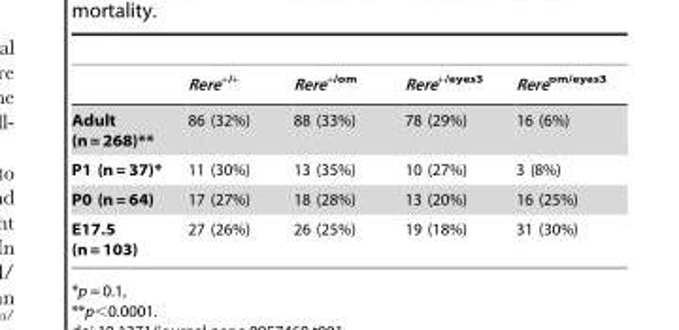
<table><thead><tr><td></td><td>Rere<sup>+/+</sup></td><td>Rere<sup>+/om</sup></td><td>Rere<sup>+/eyes3</sup></td><td>Rere<sup>om/eyes3</sup></td></tr></thead><tbody><tr><td>Adult (n = 268)**</td><td>86 (32%)</td><td>88 (33%)</td><td>78 (29%)</td><td>16 (6%)</td></tr><tr><td>P1 (n = 37)*</td><td>11 (30%)</td><td>13 (35%)</td><td>10 (27%)</td><td>3 (8%)</td></tr><tr><td>P0 (n = 64)</td><td>17 (27%)</td><td>18 (28%)</td><td>13 (20%)</td><td>16 (25%)</td></tr><tr><td>E17.5 (n = 103)</td><td>27 (26%)</td><td>26 (25%)</td><td>19 (18%)</td><td>31 (30%)</td></tr></tbody></table>